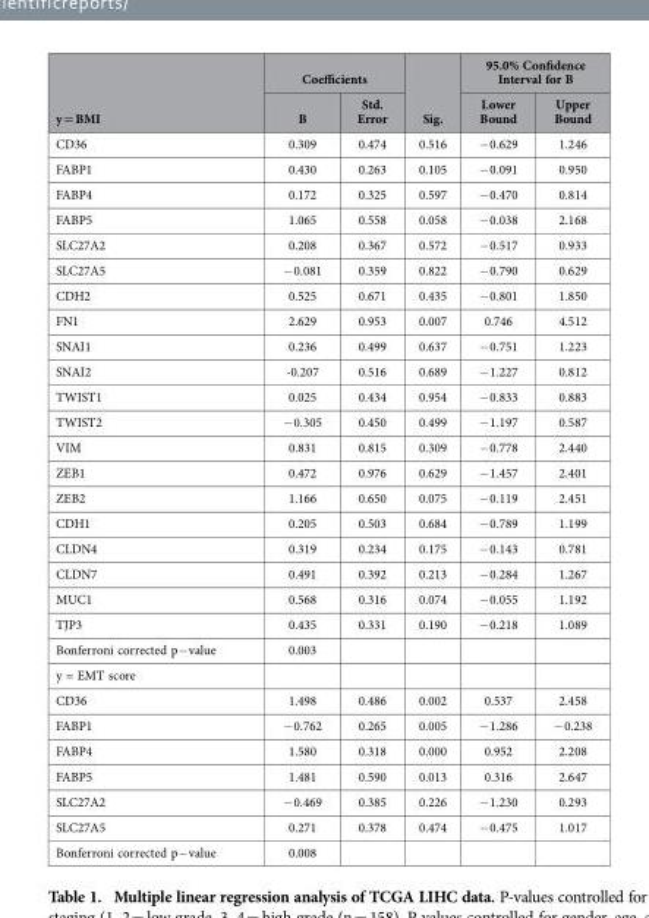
<table><thead><tr><td rowspan="2">y = BMI</td><td colspan="2">Coefficients</td><td rowspan="2">Sig.</td><td colspan="2">95.0% Confidence Interval for B</td></tr><tr><td>B</td><td>Std. Error</td><td>Lower Bound</td><td>Upper Bound</td></tr></thead><tbody><tr><td>CD36</td><td>0.309</td><td>0.474</td><td>0.516</td><td>− 0.629</td><td>1.246</td></tr><tr><td>FABP1</td><td>0.430</td><td>0.263</td><td>0.105</td><td>− 0.091</td><td>0.950</td></tr><tr><td>FABP4</td><td>0.172</td><td>0.325</td><td>0.597</td><td>− 0.470</td><td>0.814</td></tr><tr><td>FABP5</td><td>1.065</td><td>0.558</td><td>0.058</td><td>− 0.038</td><td>2.168</td></tr><tr><td>SLC27A2</td><td>0.208</td><td>0.367</td><td>0.572</td><td>− 0.517</td><td>0.933</td></tr><tr><td>SLC27A5</td><td>− 0.081</td><td>0.359</td><td>0.822</td><td>− 0.790</td><td>0.629</td></tr><tr><td>CDH2</td><td>0.525</td><td>0.671</td><td>0.435</td><td>− 0.801</td><td>1.850</td></tr><tr><td>FN1</td><td>2.629</td><td>0.953</td><td>0.007</td><td>0.746</td><td>4.512</td></tr><tr><td>SNAI1</td><td>0.236</td><td>0.499</td><td>0.637</td><td>− 0.751</td><td>1.223</td></tr><tr><td>SNAI2</td><td>-0.207</td><td>0.516</td><td>0.689</td><td>− 1.227</td><td>0.812</td></tr><tr><td>TWIST1</td><td>0.025</td><td>0.434</td><td>0.954</td><td>− 0.833</td><td>0.883</td></tr><tr><td>TWIST2</td><td>− 0.305</td><td>0.450</td><td>0.499</td><td>− 1.197</td><td>0.587</td></tr><tr><td>VIM</td><td>0.831</td><td>0.815</td><td>0.309</td><td>− 0.778</td><td>2.440</td></tr><tr><td>ZEB1</td><td>0.472</td><td>0.976</td><td>0.629</td><td>− 1.457</td><td>2.401</td></tr><tr><td>ZEB2</td><td>1.166</td><td>0.650</td><td>0.075</td><td>− 0.119</td><td>2.451</td></tr><tr><td>CDH1</td><td>0.205</td><td>0.503</td><td>0.684</td><td>− 0.789</td><td>1.199</td></tr><tr><td>CLDN4</td><td>0.319</td><td>0.234</td><td>0.175</td><td>− 0.143</td><td>0.781</td></tr><tr><td>CLDN7</td><td>0.491</td><td>0.392</td><td>0.213</td><td>− 0.284</td><td>1.267</td></tr><tr><td>MUC1</td><td>0.568</td><td>0.316</td><td>0.074</td><td>− 0.055</td><td>1.192</td></tr><tr><td>TJP3</td><td>0.435</td><td>0.331</td><td>0.190</td><td>− 0.218</td><td>1.089</td></tr><tr><td>Bonferroni corrected p− value</td><td>0.003</td><td></td><td></td><td></td><td></td></tr><tr><td colspan="6">y = EMT score</td></tr><tr><td>CD36</td><td>1.498</td><td>0.486</td><td>0.002</td><td>0.537</td><td>2.458</td></tr><tr><td>FABP1</td><td>− 0.762</td><td>0.265</td><td>0.005</td><td>− 1.286</td><td>− 0.238</td></tr><tr><td>FABP4</td><td>1.580</td><td>0.318</td><td>0.000</td><td>0.952</td><td>2.208</td></tr><tr><td>FABP5</td><td>1.481</td><td>0.590</td><td>0.013</td><td>0.316</td><td>2.647</td></tr><tr><td>SLC27A2</td><td>− 0.469</td><td>0.385</td><td>0.226</td><td>− 1.230</td><td>0.293</td></tr><tr><td>SLC27A5</td><td>0.271</td><td>0.378</td><td>0.474</td><td>− 0.475</td><td>1.017</td></tr><tr><td>Bonferroni corrected p− value</td><td>0.008</td><td></td><td></td><td></td><td></td></tr></tbody></table>